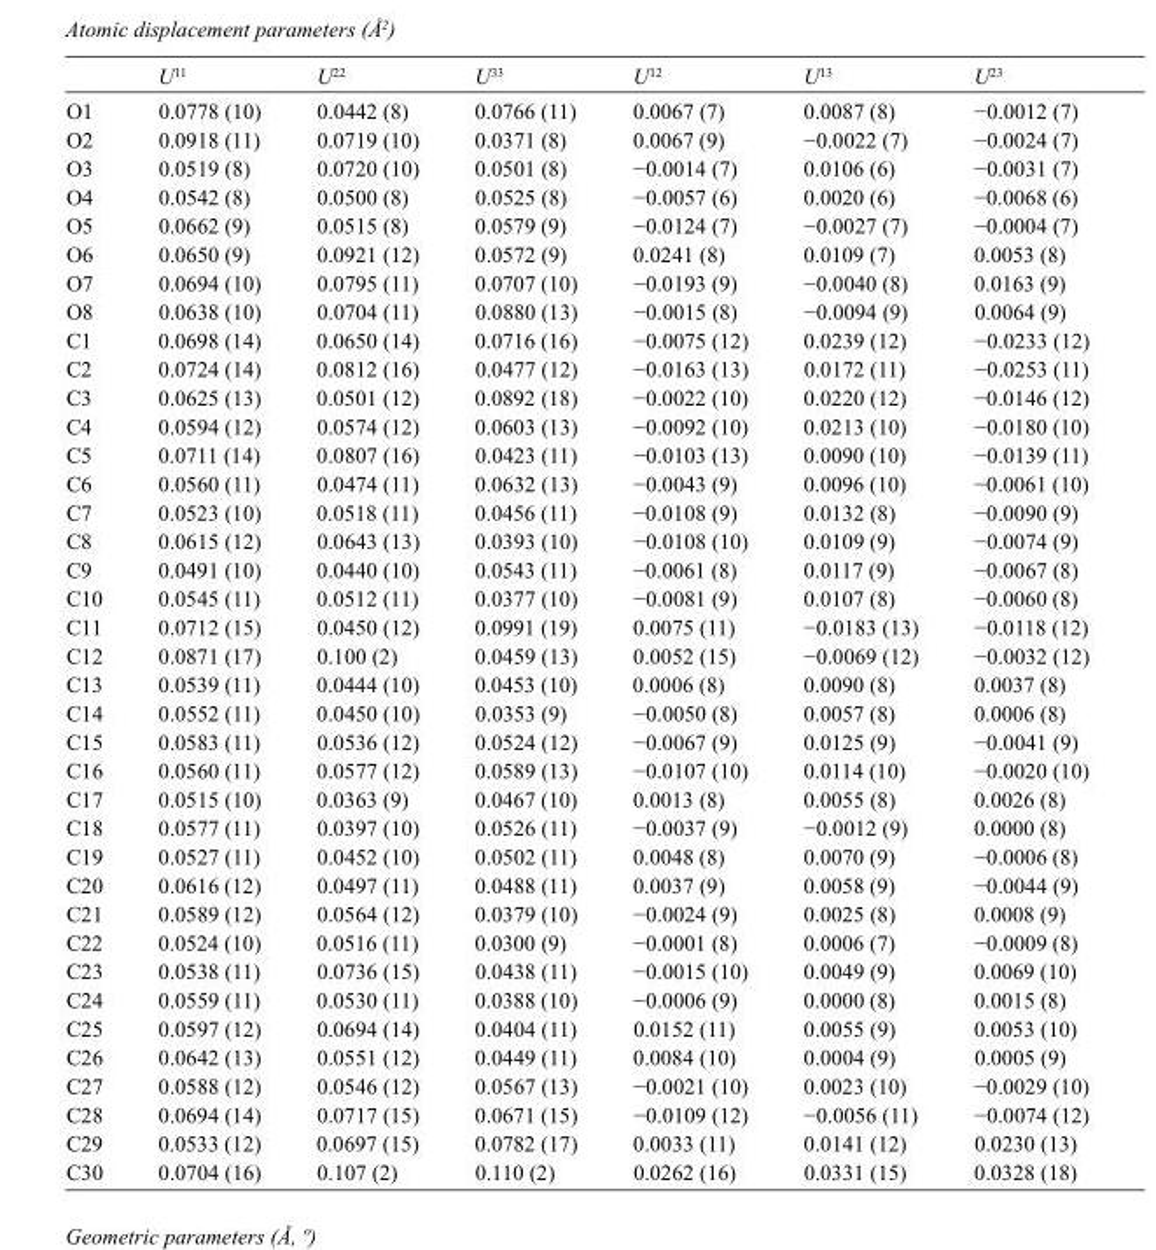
<table><thead><tr><td></td><td>U<sup>11</sup></td><td>U<sup>22</sup></td><td>U<sup>33</sup></td><td>U<sup>12</sup></td><td>U<sup>13</sup></td><td>U<sup>23</sup></td></tr></thead><tbody><tr><td>O1</td><td>0.0778 (10)</td><td>0.0442 (8)</td><td>0.0766 (11)</td><td>0.0067 (7)</td><td>0.0087 (8)</td><td>−0.0012 (7)</td></tr><tr><td>O2</td><td>0.0918 (11)</td><td>0.0719 (10)</td><td>0.0371 (8)</td><td>0.0067 (9)</td><td>−0.0022 (7)</td><td>−0.0024 (7)</td></tr><tr><td>O3</td><td>0.0519 (8)</td><td>0.0720 (10)</td><td>0.0501 (8)</td><td>−0.0014 (7)</td><td>0.0106 (6)</td><td>−0.0031 (7)</td></tr><tr><td>O4</td><td>0.0542 (8)</td><td>0.0500 (8)</td><td>0.0525 (8)</td><td>−0.0057 (6)</td><td>0.0020 (6)</td><td>−0.0068 (6)</td></tr><tr><td>O5</td><td>0.0662 (9)</td><td>0.0515 (8)</td><td>0.0579 (9)</td><td>−0.0124 (7)</td><td>−0.0027 (7)</td><td>−0.0004 (7)</td></tr><tr><td>O6</td><td>0.0650 (9)</td><td>0.0921 (12)</td><td>0.0572 (9)</td><td>0.0241 (8)</td><td>0.0109 (7)</td><td>0.0053 (8)</td></tr><tr><td>O7</td><td>0.0694 (10)</td><td>0.0795 (11)</td><td>0.0707 (10)</td><td>−0.0193 (9)</td><td>−0.0040 (8)</td><td>0.0163 (9)</td></tr><tr><td>O8</td><td>0.0638 (10)</td><td>0.0704 (11)</td><td>0.0880 (13)</td><td>−0.0015 (8)</td><td>−0.0094 (9)</td><td>0.0064 (9)</td></tr><tr><td>C1</td><td>0.0698 (14)</td><td>0.0650 (14)</td><td>0.0716 (16)</td><td>−0.0075 (12)</td><td>0.0239 (12)</td><td>−0.0233 (12)</td></tr><tr><td>C2</td><td>0.0724 (14)</td><td>0.0812 (16)</td><td>0.0477 (12)</td><td>−0.0163 (13)</td><td>0.0172 (11)</td><td>−0.0253 (11)</td></tr><tr><td>C3</td><td>0.0625 (13)</td><td>0.0501 (12)</td><td>0.0892 (18)</td><td>−0.0022 (10)</td><td>0.0220 (12)</td><td>−0.0146 (12)</td></tr><tr><td>C4</td><td>0.0594 (12)</td><td>0.0574 (12)</td><td>0.0603 (13)</td><td>−0.0092 (10)</td><td>0.0213 (10)</td><td>−0.0180 (10)</td></tr><tr><td>C5</td><td>0.0711 (14)</td><td>0.0807 (16)</td><td>0.0423 (11)</td><td>−0.0103 (13)</td><td>0.0090 (10)</td><td>−0.0139 (11)</td></tr><tr><td>C6</td><td>0.0560 (11)</td><td>0.0474 (11)</td><td>0.0632 (13)</td><td>−0.0043 (9)</td><td>0.0096 (10)</td><td>−0.0061 (10)</td></tr><tr><td>C7</td><td>0.0523 (10)</td><td>0.0518 (11)</td><td>0.0456 (11)</td><td>−0.0108 (9)</td><td>0.0132 (8)</td><td>−0.0090 (9)</td></tr><tr><td>C8</td><td>0.0615 (12)</td><td>0.0643 (13)</td><td>0.0393 (10)</td><td>−0.0108 (10)</td><td>0.0109 (9)</td><td>−0.0074 (9)</td></tr><tr><td>C9</td><td>0.0491 (10)</td><td>0.0440 (10)</td><td>0.0543 (11)</td><td>−0.0061 (8)</td><td>0.0117 (9)</td><td>−0.0067 (8)</td></tr><tr><td>C10</td><td>0.0545 (11)</td><td>0.0512 (11)</td><td>0.0377 (10)</td><td>−0.0081 (9)</td><td>0.0107 (8)</td><td>−0.0060 (8)</td></tr><tr><td>C11</td><td>0.0712 (15)</td><td>0.0450 (12)</td><td>0.0991 (19)</td><td>0.0075 (11)</td><td>−0.0183 (13)</td><td>−0.0118 (12)</td></tr><tr><td>C12</td><td>0.0871 (17)</td><td>0.100 (2)</td><td>0.0459 (13)</td><td>0.0052 (15)</td><td>−0.0069 (12)</td><td>−0.0032 (12)</td></tr><tr><td>C13</td><td>0.0539 (11)</td><td>0.0444 (10)</td><td>0.0453 (10)</td><td>0.0006 (8)</td><td>0.0090 (8)</td><td>0.0037 (8)</td></tr><tr><td>C14</td><td>0.0552 (11)</td><td>0.0450 (10)</td><td>0.0353 (9)</td><td>−0.0050 (8)</td><td>0.0057 (8)</td><td>0.0006 (8)</td></tr><tr><td>C15</td><td>0.0583 (11)</td><td>0.0536 (12)</td><td>0.0524 (12)</td><td>−0.0067 (9)</td><td>0.0125 (9)</td><td>−0.0041 (9)</td></tr><tr><td>C16</td><td>0.0560 (11)</td><td>0.0577 (12)</td><td>0.0589 (13)</td><td>−0.0107 (10)</td><td>0.0114 (10)</td><td>−0.0020 (10)</td></tr><tr><td>C17</td><td>0.0515 (10)</td><td>0.0363 (9)</td><td>0.0467 (10)</td><td>0.0013 (8)</td><td>0.0055 (8)</td><td>0.0026 (8)</td></tr><tr><td>C18</td><td>0.0577 (11)</td><td>0.0397 (10)</td><td>0.0526 (11)</td><td>−0.0037 (9)</td><td>−0.0012 (9)</td><td>0.0000 (8)</td></tr><tr><td>C19</td><td>0.0527 (11)</td><td>0.0452 (10)</td><td>0.0502 (11)</td><td>0.0048 (8)</td><td>0.0070 (9)</td><td>−0.0006 (8)</td></tr><tr><td>C20</td><td>0.0616 (12)</td><td>0.0497 (11)</td><td>0.0488 (11)</td><td>0.0037 (9)</td><td>0.0058 (9)</td><td>−0.0044 (9)</td></tr><tr><td>C21</td><td>0.0589 (12)</td><td>0.0564 (12)</td><td>0.0379 (10)</td><td>−0.0024 (9)</td><td>0.0025 (8)</td><td>0.0008 (9)</td></tr><tr><td>C22</td><td>0.0524 (10)</td><td>0.0516 (11)</td><td>0.0300 (9)</td><td>−0.0001 (8)</td><td>0.0006 (7)</td><td>−0.0009 (8)</td></tr><tr><td>C23</td><td>0.0538 (11)</td><td>0.0736 (15)</td><td>0.0438 (11)</td><td>−0.0015 (10)</td><td>0.0049 (9)</td><td>0.0069 (10)</td></tr><tr><td>C24</td><td>0.0559 (11)</td><td>0.0530 (11)</td><td>0.0388 (10)</td><td>−0.0006 (9)</td><td>0.0000 (8)</td><td>0.0015 (8)</td></tr><tr><td>C25</td><td>0.0597 (12)</td><td>0.0694 (14)</td><td>0.0404 (11)</td><td>0.0152 (11)</td><td>0.0055 (9)</td><td>0.0053 (10)</td></tr><tr><td>C26</td><td>0.0642 (13)</td><td>0.0551 (12)</td><td>0.0449 (11)</td><td>0.0084 (10)</td><td>0.0004 (9)</td><td>0.0005 (9)</td></tr><tr><td>C27</td><td>0.0588 (12)</td><td>0.0546 (12)</td><td>0.0567 (13)</td><td>−0.0021 (10)</td><td>0.0023 (10)</td><td>−0.0029 (10)</td></tr><tr><td>C28</td><td>0.0694 (14)</td><td>0.0717 (15)</td><td>0.0671 (15)</td><td>−0.0109 (12)</td><td>−0.0056 (11)</td><td>−0.0074 (12)</td></tr><tr><td>C29</td><td>0.0533 (12)</td><td>0.0697 (15)</td><td>0.0782 (17)</td><td>0.0033 (11)</td><td>0.0141 (12)</td><td>0.0230 (13)</td></tr><tr><td>C30</td><td>0.0704 (16)</td><td>0.107 (2)</td><td>0.110 (2)</td><td>0.0262 (16)</td><td>0.0331 (15)</td><td>0.0328 (18)</td></tr></tbody></table>